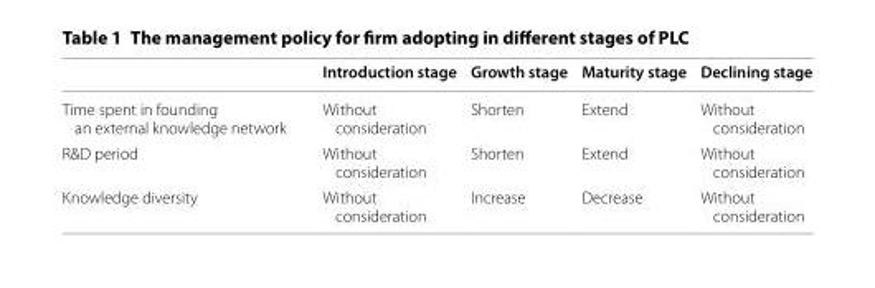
<table><thead><tr><td></td><td>Introduction stage</td><td>Growth stage</td><td>Maturity stage</td><td>Declining stage</td></tr></thead><tbody><tr><td>Time spent in founding an external knowledge network</td><td>Without consideration</td><td>Shorten</td><td>Extend</td><td>Without consideration</td></tr><tr><td>R&amp;D period</td><td>Without consideration</td><td>Shorten</td><td>Extend</td><td>Without consideration</td></tr><tr><td>Knowledge diversity</td><td>Without consideration</td><td>Increase</td><td>Decrease</td><td>Without consideration</td></tr></tbody></table>